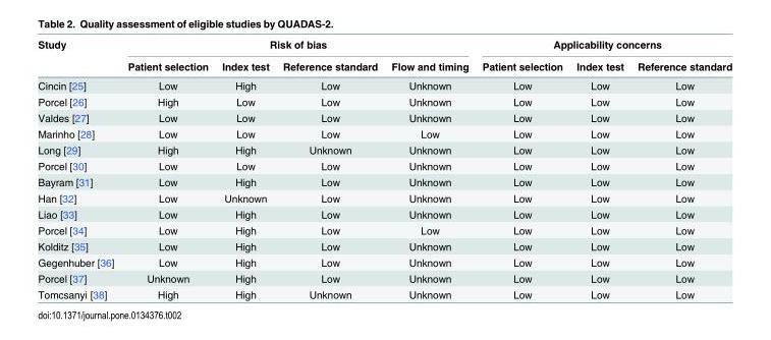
<table><thead><tr><td rowspan="2">Study</td><td colspan="4">Risk of bias</td><td colspan="3">Applicability concerns</td></tr><tr><td>Patient selection</td><td>Index test</td><td>Reference standard</td><td>Flow and timing</td><td>Patient selection</td><td>Index test</td><td>Reference standard</td></tr></thead><tbody><tr><td>Cincin [25]</td><td>Low</td><td>High</td><td>Low</td><td>Unknown</td><td>Low</td><td>Low</td><td>Low</td></tr><tr><td>Porcel [26]</td><td>High</td><td>Low</td><td>Low</td><td>Unknown</td><td>Low</td><td>Low</td><td>Low</td></tr><tr><td>Valdes [27]</td><td>Low</td><td>Low</td><td>Low</td><td>Unknown</td><td>Low</td><td>Low</td><td>Low</td></tr><tr><td>Marinho [28]</td><td>Low</td><td>Low</td><td>Low</td><td>Low</td><td>Low</td><td>Low</td><td>Low</td></tr><tr><td>Long [29]</td><td>High</td><td>High</td><td>Unknown</td><td>Unknown</td><td>Low</td><td>Low</td><td>Low</td></tr><tr><td>Porcel [30]</td><td>Low</td><td>Low</td><td>Low</td><td>Unknown</td><td>Low</td><td>Low</td><td>Low</td></tr><tr><td>Bayram [31]</td><td>Low</td><td>High</td><td>Low</td><td>Unknown</td><td>Low</td><td>Low</td><td>Low</td></tr><tr><td>Han [32]</td><td>Low</td><td>Unknown</td><td>Low</td><td>Unknown</td><td>Low</td><td>Low</td><td>Low</td></tr><tr><td>Liao [33]</td><td>Low</td><td>High</td><td>Low</td><td>Unknown</td><td>Low</td><td>Low</td><td>Low</td></tr><tr><td>Porcel [34]</td><td>Low</td><td>High</td><td>Low</td><td>Low</td><td>Low</td><td>Low</td><td>Low</td></tr><tr><td>Kolditz [35]</td><td>Low</td><td>High</td><td>Low</td><td>Unknown</td><td>Low</td><td>Low</td><td>Low</td></tr><tr><td>Gegenhuber [36]</td><td>Low</td><td>High</td><td>Low</td><td>Unknown</td><td>Low</td><td>Low</td><td>Low</td></tr><tr><td>Porcel [37]</td><td>Unknown</td><td>High</td><td>Low</td><td>Unknown</td><td>Low</td><td>Low</td><td>Low</td></tr><tr><td>Tomcsanyi [38]</td><td>High</td><td>High</td><td>Unknown</td><td>Unknown</td><td>Low</td><td>Low</td><td>Low</td></tr></tbody></table>